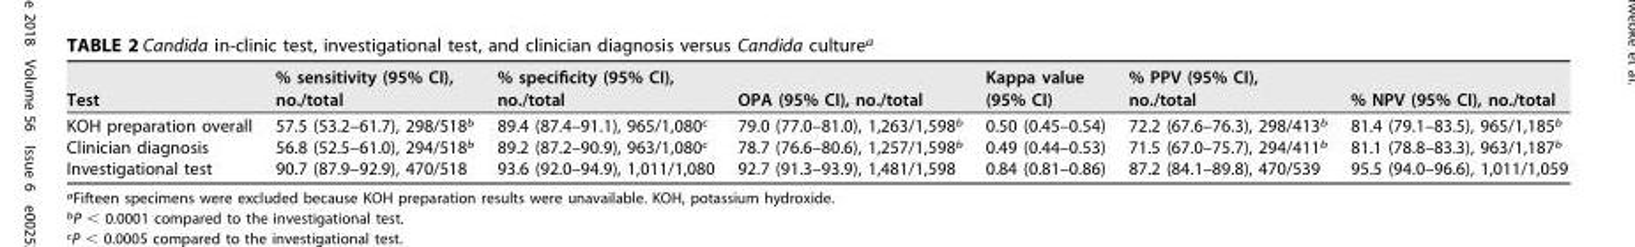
<table><thead><tr><td>Test</td><td>% sensitivity (95% CI), no./total</td><td>% specificity (95% CI), no./total</td><td>OPA (95% CI), no./total</td><td>Kappa value (95% CI)</td><td>% PPV (95% CI), no./total</td><td>% NPV (95% CI), no./total</td></tr></thead><tbody><tr><td>KOH preparation overall</td><td>57.5 (53.2–61.7), 298/518<sup>b</sup></td><td>89.4 (87.4–91.1), 965/1,080<sup>c</sup></td><td>79.0 (77.0–81.0), 1,263/1,598<sup>b</sup></td><td>0.50 (0.45–0.54)</td><td>72.2 (67.6–76.3), 298/413<sup>b</sup></td><td>81.4 (79.1–83.5), 965/1,185<sup>b</sup></td></tr><tr><td>Clinician diagnosis</td><td>56.8 (52.5–61.0), 294/518<sup>b</sup></td><td>89.2 (87.2–90.9), 963/1,080<sup>c</sup></td><td>78.7 (76.6–80.6), 1,257/1,598<sup>b</sup></td><td>0.49 (0.44–0.53)</td><td>71.5 (67.0–75.7), 294/411<sup>b</sup></td><td>81.1 (78.8–83.3), 963/1,187<sup>b</sup></td></tr><tr><td>Investigational test</td><td>90.7 (87.9–92.9), 470/518</td><td>93.6 (92.0–94.9), 1,011/1,080</td><td>92.7 (91.3–93.9), 1,481/1,598</td><td>0.84 (0.81–0.86)</td><td>87.2 (84.1–89.8), 470/539</td><td>95.5 (94.0–96.6), 1,011/1,059</td></tr></tbody></table>